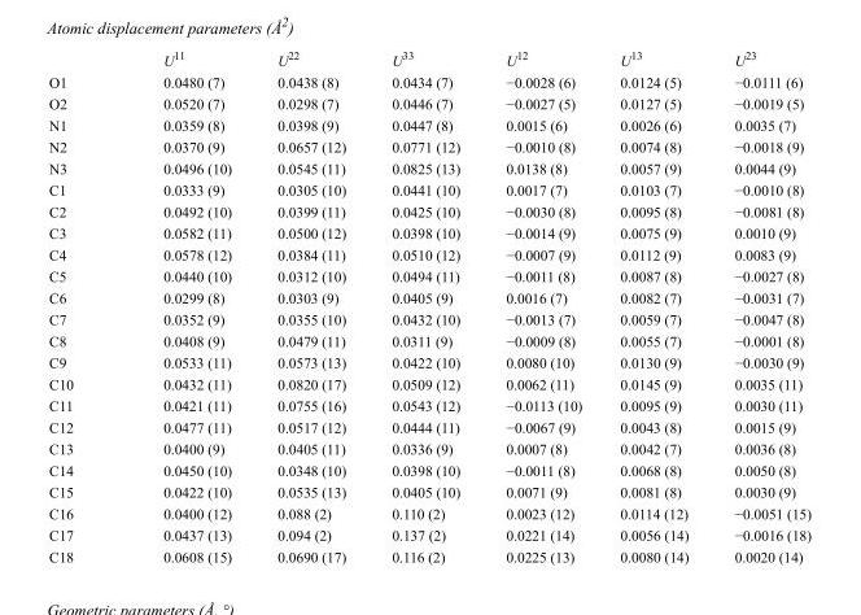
<table><thead><tr><td></td><td>U<sup>11</sup></td><td>U<sup>22</sup></td><td>U<sup>33</sup></td><td>U<sup>12</sup></td><td>U<sup>13</sup></td><td>U<sup>23</sup></td></tr></thead><tbody><tr><td>O1</td><td>0.0480 (7)</td><td>0.0438 (8)</td><td>0.0434 (7)</td><td>−0.0028 (6)</td><td>0.0124 (5)</td><td>−0.0111 (6)</td></tr><tr><td>O2</td><td>0.0520 (7)</td><td>0.0298 (7)</td><td>0.0446 (7)</td><td>−0.0027 (5)</td><td>0.0127 (5)</td><td>−0.0019 (5)</td></tr><tr><td>N1</td><td>0.0359 (8)</td><td>0.0398 (9)</td><td>0.0447 (8)</td><td>0.0015 (6)</td><td>0.0026 (6)</td><td>0.0035 (7)</td></tr><tr><td>N2</td><td>0.0370 (9)</td><td>0.0657 (12)</td><td>0.0771 (12)</td><td>−0.0010 (8)</td><td>0.0074 (8)</td><td>−0.0018 (9)</td></tr><tr><td>N3</td><td>0.0496 (10)</td><td>0.0545 (11)</td><td>0.0825 (13)</td><td>0.0138 (8)</td><td>0.0057 (9)</td><td>0.0044 (9)</td></tr><tr><td>C1</td><td>0.0333 (9)</td><td>0.0305 (10)</td><td>0.0441 (10)</td><td>0.0017 (7)</td><td>0.0103 (7)</td><td>−0.0010 (8)</td></tr><tr><td>C2</td><td>0.0492 (10)</td><td>0.0399 (11)</td><td>0.0425 (10)</td><td>−0.0030 (8)</td><td>0.0095 (8)</td><td>−0.0081 (8)</td></tr><tr><td>C3</td><td>0.0582 (11)</td><td>0.0500 (12)</td><td>0.0398 (10)</td><td>−0.0014 (9)</td><td>0.0075 (9)</td><td>0.0010 (9)</td></tr><tr><td>C4</td><td>0.0578 (12)</td><td>0.0384 (11)</td><td>0.0510 (12)</td><td>−0.0007 (9)</td><td>0.0112 (9)</td><td>0.0083 (9)</td></tr><tr><td>C5</td><td>0.0440 (10)</td><td>0.0312 (10)</td><td>0.0494 (11)</td><td>−0.0011 (8)</td><td>0.0087 (8)</td><td>−0.0027 (8)</td></tr><tr><td>C6</td><td>0.0299 (8)</td><td>0.0303 (9)</td><td>0.0405 (9)</td><td>0.0016 (7)</td><td>0.0082 (7)</td><td>−0.0031 (7)</td></tr><tr><td>C7</td><td>0.0352 (9)</td><td>0.0355 (10)</td><td>0.0432 (10)</td><td>−0.0013 (7)</td><td>0.0059 (7)</td><td>−0.0047 (8)</td></tr><tr><td>C8</td><td>0.0408 (9)</td><td>0.0479 (11)</td><td>0.0311 (9)</td><td>−0.0009 (8)</td><td>0.0055 (7)</td><td>−0.0001 (8)</td></tr><tr><td>C9</td><td>0.0533 (11)</td><td>0.0573 (13)</td><td>0.0422 (10)</td><td>0.0080 (10)</td><td>0.0130 (9)</td><td>−0.0030 (9)</td></tr><tr><td>C10</td><td>0.0432 (11)</td><td>0.0820 (17)</td><td>0.0509 (12)</td><td>0.0062 (11)</td><td>0.0145 (9)</td><td>0.0035 (11)</td></tr><tr><td>C11</td><td>0.0421 (11)</td><td>0.0755 (16)</td><td>0.0543 (12)</td><td>−0.0113 (10)</td><td>0.0095 (9)</td><td>0.0030 (11)</td></tr><tr><td>C12</td><td>0.0477 (11)</td><td>0.0517 (12)</td><td>0.0444 (11)</td><td>−0.0067 (9)</td><td>0.0043 (8)</td><td>0.0015 (9)</td></tr><tr><td>C13</td><td>0.0400 (9)</td><td>0.0405 (11)</td><td>0.0336 (9)</td><td>0.0007 (8)</td><td>0.0042 (7)</td><td>0.0036 (8)</td></tr><tr><td>C14</td><td>0.0450 (10)</td><td>0.0348 (10)</td><td>0.0398 (10)</td><td>−0.0011 (8)</td><td>0.0068 (8)</td><td>0.0050 (8)</td></tr><tr><td>C15</td><td>0.0422 (10)</td><td>0.0535 (13)</td><td>0.0405 (10)</td><td>0.0071 (9)</td><td>0.0081 (8)</td><td>0.0030 (9)</td></tr><tr><td>C16</td><td>0.0400 (12)</td><td>0.088 (2)</td><td>0.110 (2)</td><td>0.0023 (12)</td><td>0.0114 (12)</td><td>−0.0051 (15)</td></tr><tr><td>C17</td><td>0.0437 (13)</td><td>0.094 (2)</td><td>0.137 (2)</td><td>0.0221 (14)</td><td>0.0056 (14)</td><td>−0.0016 (18)</td></tr><tr><td>C18</td><td>0.0608 (15)</td><td>0.0690 (17)</td><td>0.116 (2)</td><td>0.0225 (13)</td><td>0.0080 (14)</td><td>0.0020 (14)</td></tr></tbody></table>